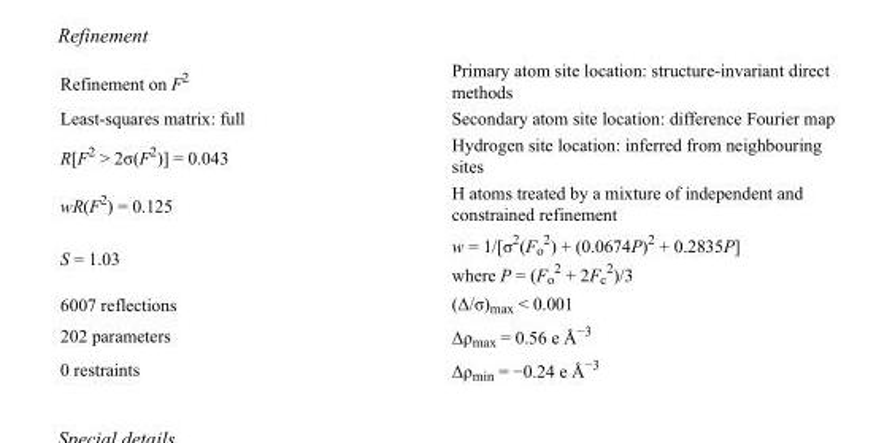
<table><tbody><tr><td>Refinement on F<sup>2</sup></td><td>Primary atom site location: structure-invariant direct methods</td></tr><tr><td>Least-squares matrix: full</td><td>Secondary atom site location: difference Fourier map</td></tr><tr><td>R[F<sup>2</sup> &gt; 2σ(F<sup>2</sup>)] = 0.043</td><td>Hydrogen site location: inferred from neighbouring sites</td></tr><tr><td>wR(F<sup>2</sup>) = 0.125</td><td>H atoms treated by a mixture of independent and constrained refinement</td></tr><tr><td>S = 1.03</td><td>w = 1/[σ<sup>2</sup>(F<sub>o</sub> <sup>2</sup>) + (0.0674P)<sup>2</sup> + 0.2835P] where P = (F<sub>o</sub> <sup>2</sup> + 2F<sub>c</sub> <sup>2</sup>)/3</td></tr><tr><td>6007 reflections</td><td>(Δ/σ)<sub>max</sub> &lt; 0.001</td></tr><tr><td>202 parameters</td><td>Δρ<sub>max</sub> = 0.56 e Å<sup>−3</sup></td></tr><tr><td>0 restraints</td><td>Δρ<sub>min</sub> = −0.24 e Å<sup>−3</sup></td></tr></tbody></table>